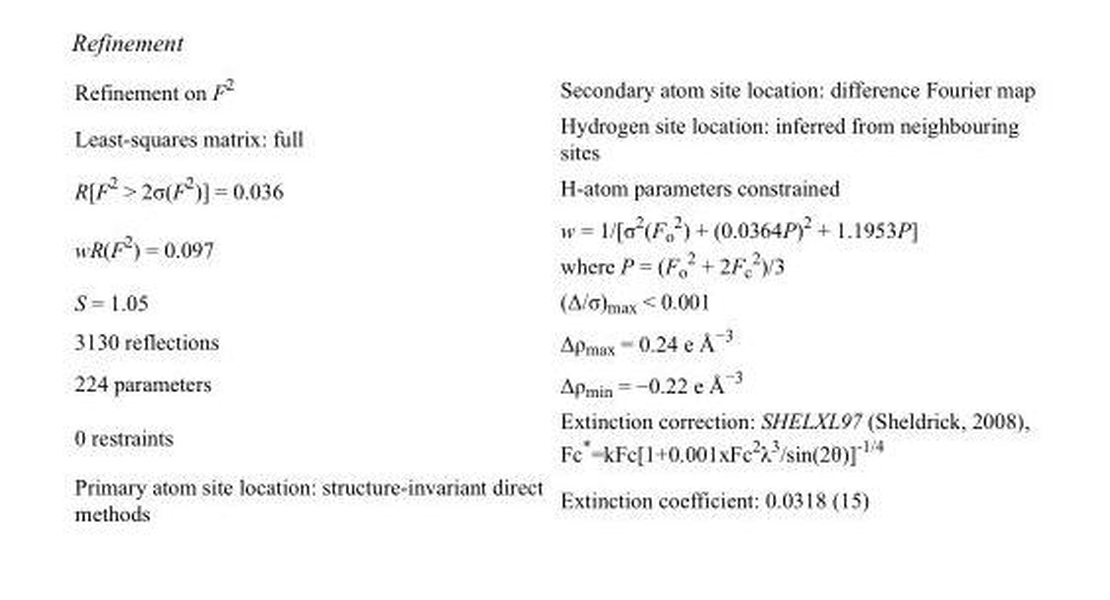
<table><tbody><tr><td>Refinement on F<sup>2</sup></td><td>Secondary atom site location: difference Fourier map</td></tr><tr><td>Least-squares matrix: full</td><td>Hydrogen site location: inferred from neighbouring sites</td></tr><tr><td>R[F<sup>2</sup> &gt; 2σ(F<sup>2</sup>)] = 0.036</td><td>H-atom parameters constrained</td></tr><tr><td>wR(F<sup>2</sup>) = 0.097</td><td>w = 1/[σ<sup>2</sup>(F<sub>o</sub> <sup>2</sup>) + (0.0364P)<sup>2</sup> + 1.1953P] where P = (F<sub>o</sub> <sup>2</sup> + 2F<sub>c</sub> <sup>2</sup>)/3</td></tr><tr><td>S = 1.05</td><td>(Δ/σ)<sub>max</sub> &lt; 0.001</td></tr><tr><td>3130 reflections</td><td>Δρ<sub>max</sub> = 0.24 e Å<sup>−3</sup></td></tr><tr><td>224 parameters</td><td>Δρ<sub>min</sub> = −0.22 e Å<sup>−3</sup></td></tr><tr><td>0 restraints</td><td>Extinction correction: SHELXL97 (Sheldrick, 2008), Fc*=kFc[1+0.001xFc<sup>2</sup>λ<sup>3</sup>/sin(2θ)]<sup>-1/4</sup></td></tr><tr><td>Primary atom site location: structure-invariant direct methods</td><td>Extinction coefficient: 0.0318 (15)</td></tr></tbody></table>